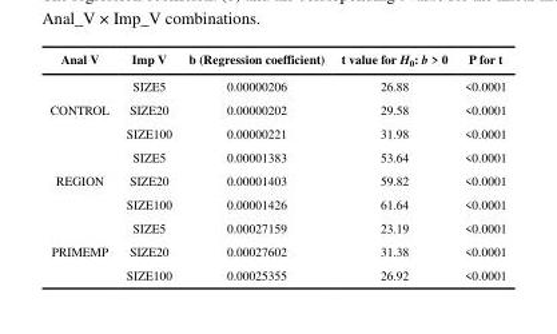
<table><thead><tr><td>Anal V</td><td>Imp V</td><td>b (Regression coefficient)</td><td>t value for H<sub>0</sub>: b &gt; 0</td><td>P for t</td></tr></thead><tbody><tr><td></td><td>SIZE5</td><td>0.00000206</td><td>26.88</td><td>&lt;0.0001</td></tr><tr><td rowspan="3">CONTROL</td><td>SIZE20</td><td>0.00000202</td><td>29.58</td><td>&lt;0.0001</td></tr><tr><td>SIZE100</td><td>0.00000221</td><td>31.98</td><td>&lt;0.0001</td></tr><tr><td>SIZE5</td><td>0.00001383</td><td>53.64</td><td>&lt;0.0001</td></tr><tr><td rowspan="3">REGION</td><td>SIZE20</td><td>0.00001403</td><td>59.82</td><td>&lt;0.0001</td></tr><tr><td>SIZE100</td><td>0.00001426</td><td>61.64</td><td>&lt;0.0001</td></tr><tr><td>SIZE5</td><td>0.00027159</td><td>23.19</td><td>&lt;0.0001</td></tr><tr><td rowspan="2">PRIMEMP</td><td>SIZE20</td><td>0.00027602</td><td>31.38</td><td>&lt;0.0001</td></tr><tr><td>SIZE100</td><td>0.00025355</td><td>26.92</td><td>&lt;0.0001</td></tr></tbody></table>